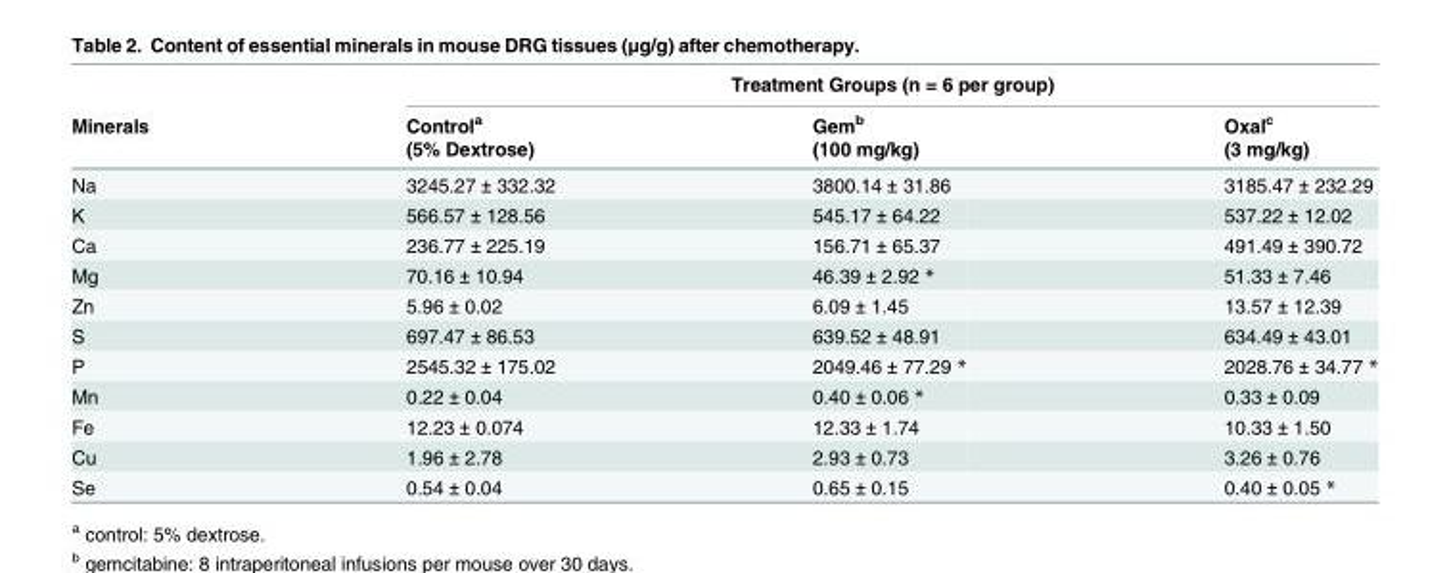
<table><thead><tr><td rowspan="3">Minerals</td><td colspan="3">Treatment Groups (n = 6 per group)</td></tr><tr><td rowspan="2">Control<sup>a</sup> (5% Dextrose)</td><td rowspan="2">Gem<sup>b</sup> (100 mg/kg)</td><td rowspan="2">Oxal<sup>c</sup> (3 mg/kg)</td></tr><tr></tr></thead><tbody><tr><td>Na</td><td>3245.27 ± 332.32</td><td>3800.14 ± 31.86</td><td>3185.47 ± 232.29</td></tr><tr><td>K</td><td>566.57 ± 128.56</td><td>545.17 ± 64.22</td><td>537.22 ± 12.02</td></tr><tr><td>Ca</td><td>236.77 ± 225.19</td><td>156.71 ± 65.37</td><td>491.49 ± 390.72</td></tr><tr><td>Mg</td><td>70.16 ± 10.94</td><td>46.39 ± 2.92 *</td><td>51.33 ± 7.46</td></tr><tr><td>Zn</td><td>5.96 ± 0.02</td><td>6.09 ± 1.45</td><td>13.57 ± 12.39</td></tr><tr><td>S</td><td>697.47 ± 86.53</td><td>639.52 ± 48.91</td><td>634.49 ± 43.01</td></tr><tr><td>P</td><td>2545.32 ± 175.02</td><td>2049.46 ± 77.29 *</td><td>2028.76 ± 34.77 *</td></tr><tr><td>Mn</td><td>0.22 ± 0.04</td><td>0.40 ± 0.06 *</td><td>0.33 ± 0.09</td></tr><tr><td>Fe</td><td>12.23 ± 0.074</td><td>12.33 ± 1.74</td><td>10.33 ± 1.50</td></tr><tr><td>Cu</td><td>1.96 ± 2.78</td><td>2.93 ± 0.73</td><td>3.26 ± 0.76</td></tr><tr><td>Se</td><td>0.54 ± 0.04</td><td>0.65 ± 0.15</td><td>0.40 ± 0.05 *</td></tr></tbody></table>